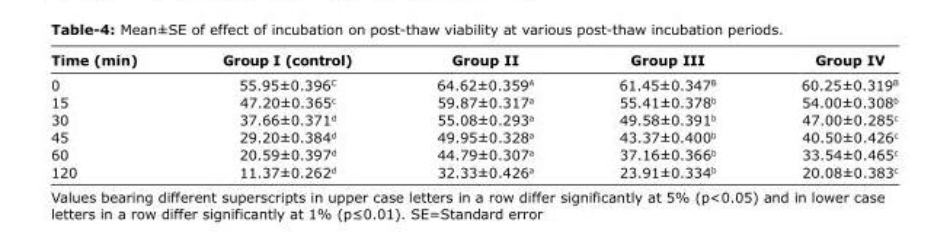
<table><thead><tr><td>Time (min)</td><td>Group I (control)</td><td>Group II</td><td>Group III</td><td>Group IV</td></tr></thead><tbody><tr><td>0</td><td>55.95±0.396<sup>C</sup></td><td>64.62±0.359<sup>A</sup></td><td>61.45±0.347<sup>B</sup></td><td>60.25±0.319<sup>B</sup></td></tr><tr><td>15</td><td>47.20±0.365<sup>c</sup></td><td>59.87±0.317<sup>a</sup></td><td>55.41±0.378<sup>b</sup></td><td>54.00±0.308<sup>b</sup></td></tr><tr><td>30</td><td>37.66±0.371<sup>d</sup></td><td>55.08±0.293<sup>a</sup></td><td>49.58±0.391<sup>b</sup></td><td>47.00±0.285<sup>c</sup></td></tr><tr><td>45</td><td>29.20±0.384<sup>d</sup></td><td>49.95±0.328<sup>a</sup></td><td>43.37±0.400<sup>b</sup></td><td>40.50±0.426<sup>c</sup></td></tr><tr><td>60</td><td>20.59±0.397<sup>d</sup></td><td>44.79±0.307<sup>a</sup></td><td>37.16±0.366<sup>b</sup></td><td>33.54±0.465<sup>c</sup></td></tr><tr><td>120</td><td>11.37±0.262<sup>d</sup></td><td>32.33±0.426<sup>a</sup></td><td>23.91±0.334<sup>b</sup></td><td>20.08±0.383<sup>c</sup></td></tr></tbody></table>